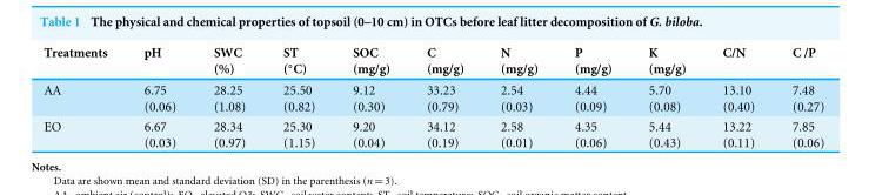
<table><thead><tr><td>Treatments</td><td>pH</td><td>SWC (%)</td><td>ST (◦C)</td><td>SOC (mg/g)</td><td>C (mg/g)</td><td>N (mg/g)</td><td>P (mg/g)</td><td>K (mg/g)</td><td>C/N</td><td>C /P</td></tr></thead><tbody><tr><td>AA</td><td>6.75 (0.06)</td><td>28.25 (1.08)</td><td>25.50 (0.82)</td><td>9.12 (0.30)</td><td>33.23 (0.79)</td><td>2.54 (0.03)</td><td>4.44 (0.09)</td><td>5.70 (0.08)</td><td>13.10 (0.40)</td><td>7.48 (0.27)</td></tr><tr><td>EO</td><td>6.67 (0.03)</td><td>28.34 (0.97)</td><td>25.30 (1.15)</td><td>9.20 (0.04)</td><td>34.12 (0.19)</td><td>2.58 (0.01)</td><td>4.35 (0.06)</td><td>5.44 (0.43)</td><td>13.22 (0.11)</td><td>7.85 (0.06)</td></tr></tbody></table>